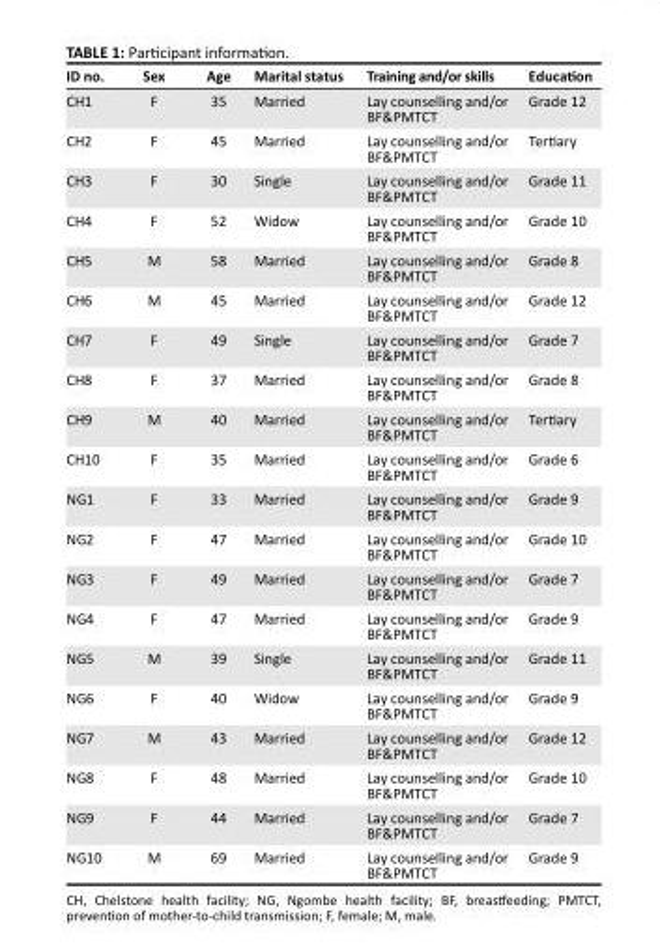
<table><thead><tr><td>ID no.</td><td>Sex</td><td>Age</td><td>Marital status</td><td>Training and/or skills</td><td>Education</td></tr></thead><tbody><tr><td>CH1</td><td>F</td><td>35</td><td>Married</td><td>Lay counselling and/or BF&amp;PMTCT</td><td>Grade 12</td></tr><tr><td>CH2</td><td>F</td><td>45</td><td>Married</td><td>Lay counselling and/or BF&amp;PMTCT</td><td>Tertiary</td></tr><tr><td>CH3</td><td>F</td><td>30</td><td>Single</td><td>Lay counselling and/or BF&amp;PMTCT</td><td>Grade 11</td></tr><tr><td>CH4</td><td>F</td><td>52</td><td>Widow</td><td>Lay counselling and/or BF&amp;PMTCT</td><td>Grade 10</td></tr><tr><td>CH5</td><td>M</td><td>58</td><td>Married</td><td>Lay counselling and/or BF&amp;PMTCT</td><td>Grade 8</td></tr><tr><td>CH6</td><td>M</td><td>45</td><td>Married</td><td>Lay counselling and/or BF&amp;PMTCT</td><td>Grade 12</td></tr><tr><td>CH7</td><td>F</td><td>49</td><td>Single</td><td>Lay counselling and/or BF&amp;PMTCT</td><td>Grade 7</td></tr><tr><td>CH8</td><td>F</td><td>37</td><td>Married</td><td>Lay counselling and/or BF&amp;PMTCT</td><td>Grade 8</td></tr><tr><td>CH9</td><td>M</td><td>40</td><td>Married</td><td>Lay counselling and/or BF&amp;PMTCT</td><td>Tertiary</td></tr><tr><td>CH10</td><td>F</td><td>35</td><td>Married</td><td>Lay counselling and/or BF&amp;PMTCT</td><td>Grade 6</td></tr><tr><td>NG1</td><td>F</td><td>33</td><td>Married</td><td>Lay counselling and/or BF&amp;PMTCT</td><td>Grade 9</td></tr><tr><td>NG2</td><td>F</td><td>47</td><td>Married</td><td>Lay counselling and/or BF&amp;PMTCT</td><td>Grade 10</td></tr><tr><td>NG3</td><td>F</td><td>49</td><td>Married</td><td>Lay counselling and/or BF&amp;PMTCT</td><td>Grade 7</td></tr><tr><td>NG4</td><td>F</td><td>47</td><td>Married</td><td>Lay counselling and/or BF&amp;PMTCT</td><td>Grade 9</td></tr><tr><td>NG5</td><td>M</td><td>39</td><td>Single</td><td>Lay counselling and/or BF&amp;PMTCT</td><td>Grade 11</td></tr><tr><td>NG6</td><td>F</td><td>40</td><td>Widow</td><td>Lay counselling and/or BF&amp;PMTCT</td><td>Grade 9</td></tr><tr><td>NG7</td><td>M</td><td>43</td><td>Married</td><td>Lay counselling and/or BF&amp;PMTCT</td><td>Grade 12</td></tr><tr><td>NG8</td><td>F</td><td>48</td><td>Married</td><td>Lay counselling and/or BF&amp;PMTCT</td><td>Grade 10</td></tr><tr><td>NG9</td><td>F</td><td>44</td><td>Married</td><td>Lay counselling and/or BF&amp;PMTCT</td><td>Grade 7</td></tr><tr><td>NG10</td><td>M</td><td>69</td><td>Married</td><td>Lay counselling and/or BF&amp;PMTCT</td><td>Grade 9</td></tr></tbody></table>